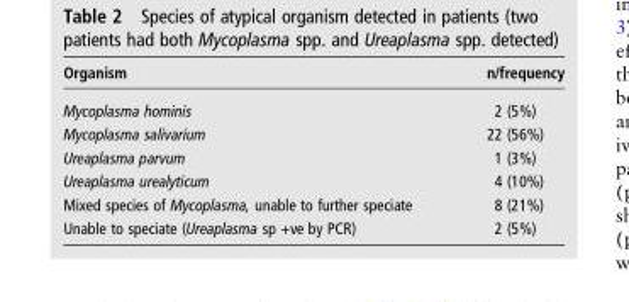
<table><thead><tr><td>Organism</td><td>n/frequency</td></tr></thead><tbody><tr><td>Mycoplasma hominis</td><td>2 (5%)</td></tr><tr><td>Mycoplasma salivarium</td><td>22 (56%)</td></tr><tr><td>Ureaplasma parvum</td><td>1 (3%)</td></tr><tr><td>Ureaplasma urealyticum</td><td>4 (10%)</td></tr><tr><td>Mixed species of Mycoplasma, unable to further speciate</td><td>8 (21%)</td></tr><tr><td>Unable to speciate (Ureaplasma sp +ve by PCR)</td><td>2 (5%)</td></tr></tbody></table>